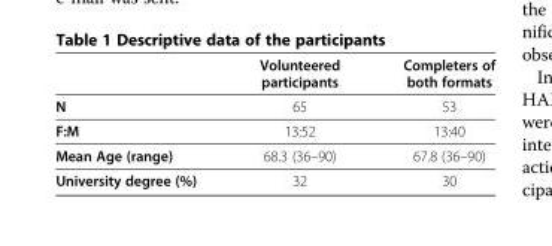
<table><thead><tr><td></td><td>Volunteered participants</td><td>Completers of both formats</td></tr></thead><tbody><tr><td>N</td><td>65</td><td>53</td></tr><tr><td>F:M</td><td>13:52</td><td>13:40</td></tr><tr><td>Mean Age (range)</td><td>68.3 (36–90)</td><td>67.8 (36–90)</td></tr><tr><td>University degree (%)</td><td>32</td><td>30</td></tr></tbody></table>